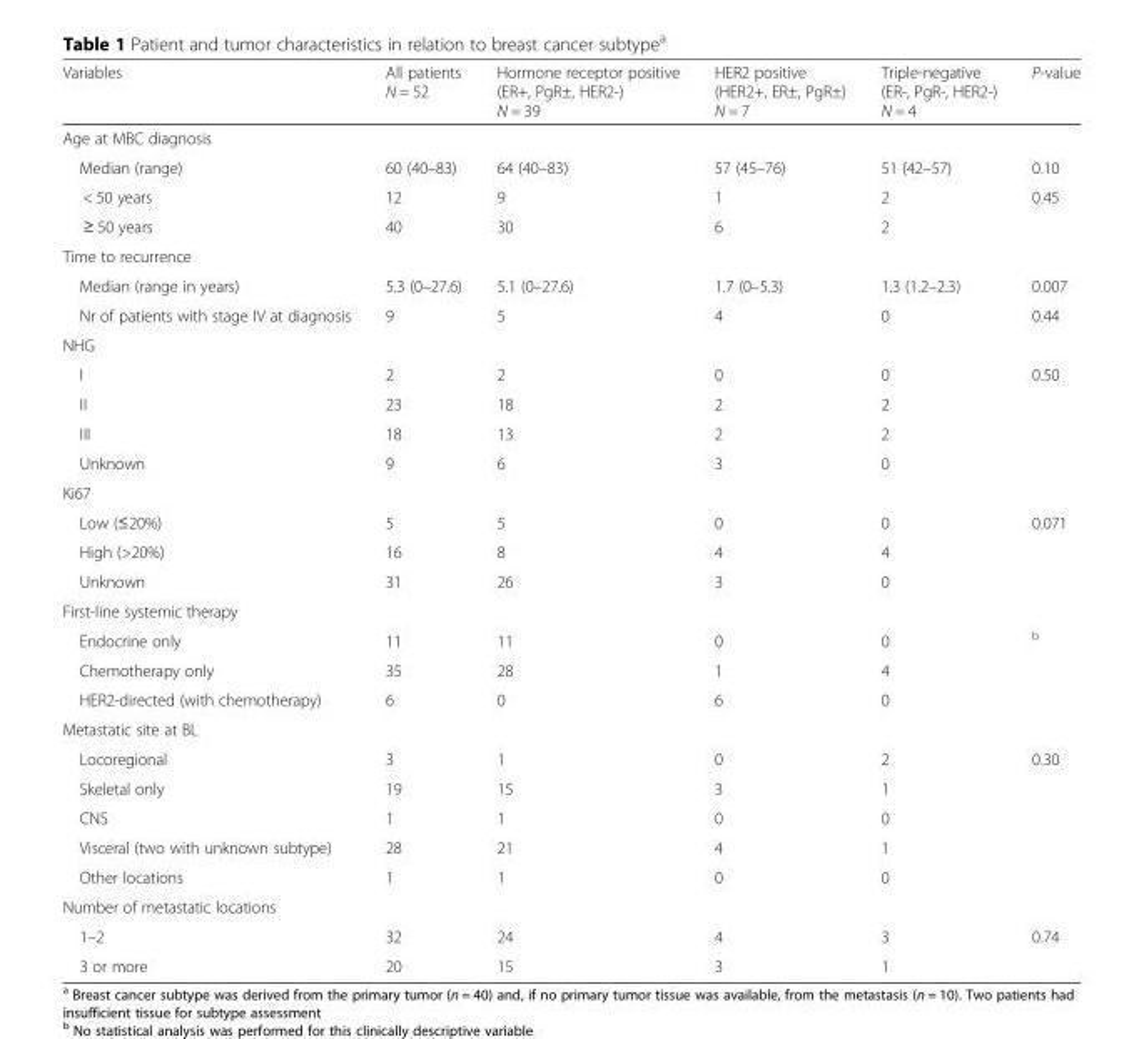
<table><thead><tr><td>Variables</td><td>All patients N = 52</td><td>Hormone receptor positive (ER+, PgR±, HER2-) N = 39</td><td>HER2 positive (HER2+, ER±, PgR±) N = 7</td><td>Triple-negative (ER-, PgR-, HER2-) N = 4</td><td>P-value</td></tr></thead><tbody><tr><td colspan="6">Age at MBC diagnosis</td></tr><tr><td>Median (range)</td><td>60 (40–83)</td><td>64 (40–83)</td><td>57 (45–76)</td><td>51 (42–57)</td><td>0.10</td></tr><tr><td>&lt; 50 years</td><td>12</td><td>9</td><td>1</td><td>2</td><td>0.45</td></tr><tr><td>≥ 50 years</td><td>40</td><td>30</td><td>6</td><td>2</td><td></td></tr><tr><td colspan="6">Time to recurrence</td></tr><tr><td>Median (range in years)</td><td>5.3 (0–27.6)</td><td>5.1 (0–27.6)</td><td>1.7 (0–5.3)</td><td>1.3 (1.2–2.3)</td><td>0.007</td></tr><tr><td>Nr of patients with stage IV at diagnosis</td><td>9</td><td>5</td><td>4</td><td>0</td><td>0.44</td></tr><tr><td colspan="6">NHG</td></tr><tr><td>I</td><td>2</td><td>2</td><td>0</td><td>0</td><td>0.50</td></tr><tr><td>II</td><td>23</td><td>18</td><td>2</td><td>2</td><td></td></tr><tr><td>III</td><td>18</td><td>13</td><td>2</td><td>2</td><td></td></tr><tr><td>Unknown</td><td>9</td><td>6</td><td>3</td><td>0</td><td></td></tr><tr><td colspan="6">Ki67</td></tr><tr><td>Low (≤20%)</td><td>5</td><td>5</td><td>0</td><td>0</td><td>0.071</td></tr><tr><td>High (&gt;20%)</td><td>16</td><td>8</td><td>4</td><td>4</td><td></td></tr><tr><td>Unknown</td><td>31</td><td>26</td><td>3</td><td>0</td><td></td></tr><tr><td colspan="6">First-line systemic therapy</td></tr><tr><td>Endocrine only</td><td>11</td><td>11</td><td>0</td><td>0</td><td><sup>b</sup></td></tr><tr><td>Chemotherapy only</td><td>35</td><td>28</td><td>1</td><td>4</td><td></td></tr><tr><td>HER2-directed (with chemotherapy)</td><td>6</td><td>0</td><td>6</td><td>0</td><td></td></tr><tr><td colspan="6">Metastatic site at BL</td></tr><tr><td>Locoregional</td><td>3</td><td>1</td><td>0</td><td>2</td><td>0.30</td></tr><tr><td>Skeletal only</td><td>19</td><td>15</td><td>3</td><td>1</td><td></td></tr><tr><td>CNS</td><td>1</td><td>1</td><td>0</td><td>0</td><td></td></tr><tr><td>Visceral (two with unknown subtype)</td><td>28</td><td>21</td><td>4</td><td>1</td><td></td></tr><tr><td>Other locations</td><td>1</td><td>1</td><td>0</td><td>0</td><td></td></tr><tr><td colspan="6">Number of metastatic locations</td></tr><tr><td>1–2</td><td>32</td><td>24</td><td>4</td><td>3</td><td>0.74</td></tr><tr><td>3 or more</td><td>20</td><td>15</td><td>3</td><td>1</td><td></td></tr></tbody></table>